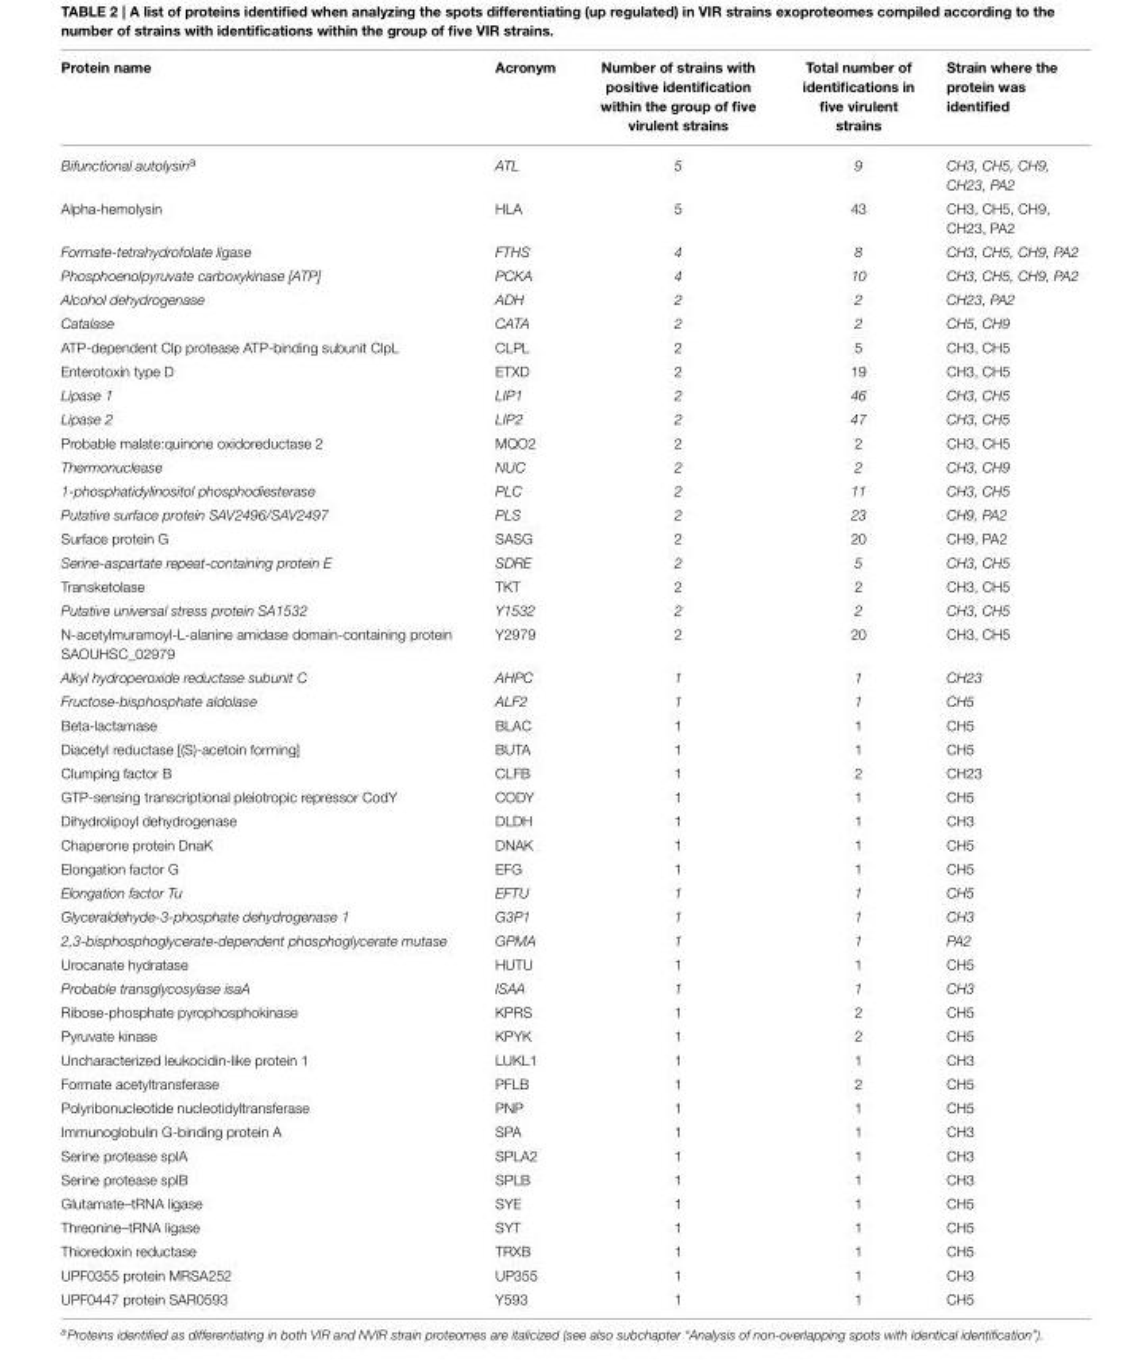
<table><thead><tr><td>Protein name</td><td>Acronym</td><td>Number of strains with positive identification within the group of five virulent strains</td><td>Total number of identifications in five virulent strains</td><td>Strain where the protein was identified</td></tr></thead><tbody><tr><td>Bifunctional autolysin<sup>a</sup></td><td>ATL</td><td>5</td><td>9</td><td>CH3, CH5, CH9, CH23, PA2</td></tr><tr><td>Alpha-hemolysin</td><td>HLA</td><td>5</td><td>43</td><td>CH3, CH5, CH9, CH23, PA2</td></tr><tr><td>Formate-tetrahydrofolate ligase</td><td>FTHS</td><td>4</td><td>8</td><td>CH3, CH5, CH9, PA2</td></tr><tr><td>Phosphoenolpyruvate carboxykinase [ATP]</td><td>PCKA</td><td>4</td><td>10</td><td>CH3, CH5, CH9, PA2</td></tr><tr><td>Alcohol dehydrogenase</td><td>ADH</td><td>2</td><td>2</td><td>CH23, PA2</td></tr><tr><td>Catalase</td><td>CATA</td><td>2</td><td>2</td><td>CH5, CH9</td></tr><tr><td>ATP-dependent Clp protease ATP-binding subunit ClpL</td><td>CLPL</td><td>2</td><td>5</td><td>CH3, CH5</td></tr><tr><td>Enterotoxin type D</td><td>ETXD</td><td>2</td><td>19</td><td>CH3, CH5</td></tr><tr><td>Lipase 1</td><td>LIP1</td><td>2</td><td>46</td><td>CH3, CH5</td></tr><tr><td>Lipase 2</td><td>LIP2</td><td>2</td><td>47</td><td>CH3, CH5</td></tr><tr><td>Probable malate:quinone oxidoreductase 2</td><td>MQO2</td><td>2</td><td>2</td><td>CH3, CH5</td></tr><tr><td>Thermonuclease</td><td>NUC</td><td>2</td><td>2</td><td>CH3, CH9</td></tr><tr><td>1-phosphatidylinositol phosphodiesterase</td><td>PLC</td><td>2</td><td>11</td><td>CH3, CH5</td></tr><tr><td>Putative surface protein SAV2496/SAV2497</td><td>PLS</td><td>2</td><td>23</td><td>CH9, PA2</td></tr><tr><td>Surface protein G</td><td>SASG</td><td>2</td><td>20</td><td>CH9, PA2</td></tr><tr><td>Serine-aspartate repeat-containing protein E</td><td>SDRE</td><td>2</td><td>5</td><td>CH3, CH5</td></tr><tr><td>Transketolase</td><td>TKT</td><td>2</td><td>2</td><td>CH3, CH5</td></tr><tr><td>Putative universal stress protein SA1532</td><td>Y1532</td><td>2</td><td>2</td><td>CH3, CH5</td></tr><tr><td>N-acetylmuramoyl-L-alanine amidase domain-containing protein SAOUHSC_02979</td><td>Y2979</td><td>2</td><td>20</td><td>CH3, CH5</td></tr><tr><td>Alkyl hydroperoxide reductase subunit C</td><td>AHPC</td><td>1</td><td>1</td><td>CH23</td></tr><tr><td>Fructose-bisphosphate aldolase</td><td>ALF2</td><td>1</td><td>1</td><td>CH5</td></tr><tr><td>Beta-lactamase</td><td>BLAC</td><td>1</td><td>1</td><td>CH5</td></tr><tr><td>Diacetyl reductase [(S)-acetoin forming]</td><td>BUTA</td><td>1</td><td>1</td><td>CH5</td></tr><tr><td>Clumping factor B</td><td>CLFB</td><td>1</td><td>2</td><td>CH23</td></tr><tr><td>GTP-sensing transcriptional pleiotropic repressor CodY</td><td>CODY</td><td>1</td><td>1</td><td>CH5</td></tr><tr><td>Dihydrolipoyl dehydrogenase</td><td>DLDH</td><td>1</td><td>1</td><td>CH3</td></tr><tr><td>Chaperone protein DnaK</td><td>DNAK</td><td>1</td><td>1</td><td>CH5</td></tr><tr><td>Elongation factor G</td><td>EFG</td><td>1</td><td>1</td><td>CH5</td></tr><tr><td>Elongation factor Tu</td><td>EFTU</td><td>1</td><td>1</td><td>CH5</td></tr><tr><td>Glyceraldehyde-3-phosphate dehydrogenase 1</td><td>G3P1</td><td>1</td><td>1</td><td>CH3</td></tr><tr><td>2,3-bisphosphoglycerate-dependent phosphoglycerate mutase</td><td>GPMA</td><td>1</td><td>1</td><td>PA2</td></tr><tr><td>Urocanate hydratase</td><td>HUTU</td><td>1</td><td>1</td><td>CH5</td></tr><tr><td>Probable transglycosylase isaA</td><td>ISAA</td><td>1</td><td>1</td><td>CH3</td></tr><tr><td>Ribose-phosphate pyrophosphokinase</td><td>KPRS</td><td>1</td><td>2</td><td>CH5</td></tr><tr><td>Pyruvate kinase</td><td>KPYK</td><td>1</td><td>2</td><td>CH5</td></tr><tr><td>Uncharacterized leukocidin-like protein 1</td><td>LUKL1</td><td>1</td><td>1</td><td>CH3</td></tr><tr><td>Formate acetyltransferase</td><td>PFLB</td><td>1</td><td>2</td><td>CH5</td></tr><tr><td>Polyribonucleotide nucleotidyltransferase</td><td>PNP</td><td>1</td><td>1</td><td>CH5</td></tr><tr><td>Immunoglobulin G-binding protein A</td><td>SPA</td><td>1</td><td>1</td><td>CH3</td></tr><tr><td>Serine protease splA</td><td>SPLA2</td><td>1</td><td>1</td><td>CH3</td></tr><tr><td>Serine protease splB</td><td>SPLB</td><td>1</td><td>1</td><td>CH3</td></tr><tr><td>Glutamate–tRNA ligase</td><td>SYE</td><td>1</td><td>1</td><td>CH5</td></tr><tr><td>Threonine–tRNA ligase</td><td>SYT</td><td>1</td><td>1</td><td>CH5</td></tr><tr><td>Thioredoxin reductase</td><td>TRXB</td><td>1</td><td>1</td><td>CH5</td></tr><tr><td>UPF0355 protein MRSA252</td><td>UP355</td><td>1</td><td>1</td><td>CH3</td></tr><tr><td>UPF0447 protein SAR0593</td><td>Y593</td><td>1</td><td>1</td><td>CH5</td></tr></tbody></table>